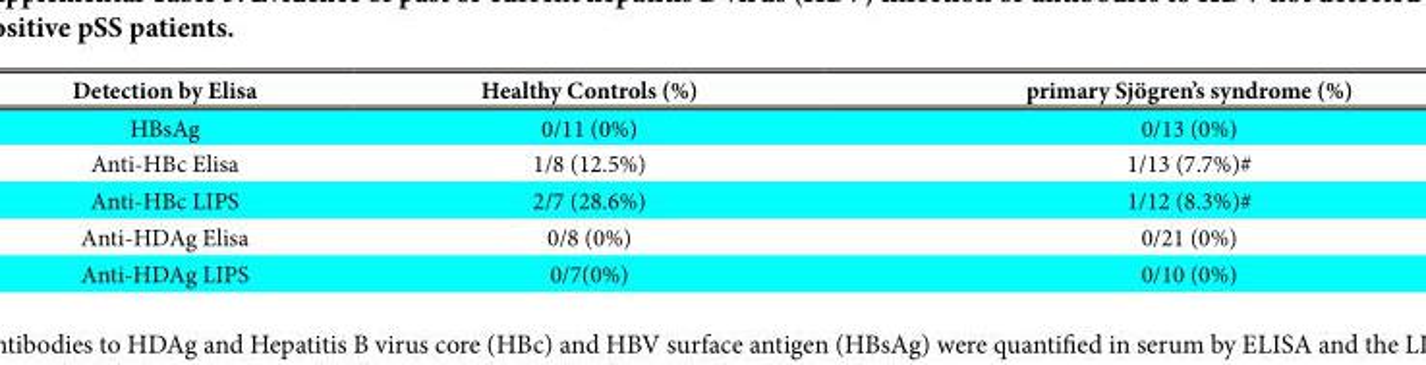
<table><thead><tr><td>Detection by Elisa</td><td>Healthy Controls (%)</td><td>primary Sjögren’s syndrome (%)</td></tr></thead><tbody><tr><td>HBsAg</td><td>0/11 (0%)</td><td>0/13 (0%)</td></tr><tr><td>Anti-HBc Elisa</td><td>1/8 (12.5%)</td><td>1/13 (7.7%)#</td></tr><tr><td>Anti-HBc LIPS</td><td>2/7 (28.6%)</td><td>1/12 (8.3%)#</td></tr><tr><td>Anti-HDAg Elisa</td><td>0/8 (0%)</td><td>0/21 (0%)</td></tr><tr><td>Anti-HDAg LIPS</td><td>0/7(0%)</td><td>0/10 (0%)</td></tr></tbody></table>